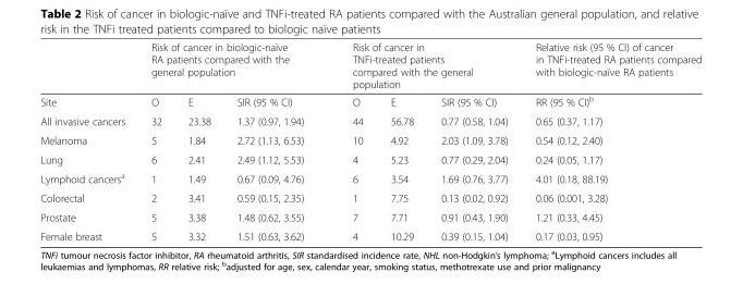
<table><thead><tr><td rowspan="2">Site</td><td colspan="3">Risk of cancer in biologic-naïve RA patients compared with the general population</td><td colspan="3">Risk of cancer in TNFi-treated patients compared with the general population</td><td rowspan="2">Relative risk (95 % CI) of cancer in TNFi-treated RA patients compared with biologic-naïve RA patients RR (95 % CI)<sup>b</sup></td></tr><tr><td>O</td><td>E</td><td>SIR (95 % CI)</td><td>O</td><td>E</td><td>SIR (95 % CI)</td></tr></thead><tbody><tr><td>All invasive cancers</td><td>32</td><td>23.38</td><td>1.37 (0.97, 1.94)</td><td>44</td><td>56.78</td><td>0.77 (0.58, 1.04)</td><td>0.65 (0.37, 1.17)</td></tr><tr><td>Melanoma</td><td>5</td><td>1.84</td><td>2.72 (1.13, 6.53)</td><td>10</td><td>4.92</td><td>2.03 (1.09, 3.78)</td><td>0.54 (0.12, 2.40)</td></tr><tr><td>Lung</td><td>6</td><td>2.41</td><td>2.49 (1.12, 5.53)</td><td>4</td><td>5.23</td><td>0.77 (0.29, 2.04)</td><td>0.24 (0.05, 1.17)</td></tr><tr><td>Lymphoid cancers<sup>a</sup></td><td>1</td><td>1.49</td><td>0.67 (0.09, 4.76)</td><td>6</td><td>3.54</td><td>1.69 (0.76, 3.77)</td><td>4.01 (0.18, 88.19)</td></tr><tr><td>Colorectal</td><td>2</td><td>3.41</td><td>0.59 (0.15, 2.35)</td><td>1</td><td>7.75</td><td>0.13 (0.02, 0.92)</td><td>0.06 (0.001, 3.28)</td></tr><tr><td>Prostate</td><td>5</td><td>3.38</td><td>1.48 (0.62, 3.55)</td><td>7</td><td>7.71</td><td>0.91 (0.43, 1.90)</td><td>1.21 (0.33, 4.45)</td></tr><tr><td>Female breast</td><td>5</td><td>3.32</td><td>1.51 (0.63, 3.62)</td><td>4</td><td>10.29</td><td>0.39 (0.15, 1.04)</td><td>0.17 (0.03, 0.95)</td></tr></tbody></table>